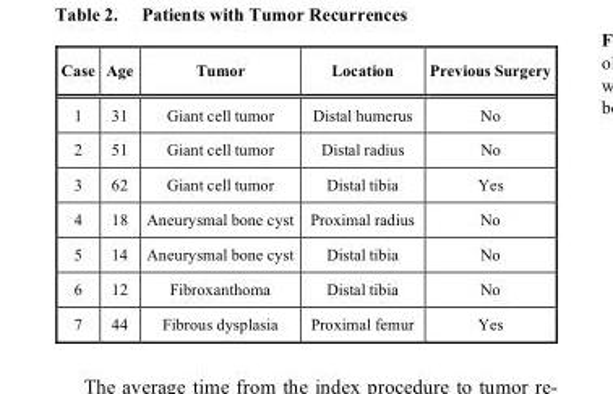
<table><thead><tr><td>Case</td><td>Age</td><td>Tumor</td><td>Location</td><td>Previous Surgery</td></tr></thead><tbody><tr><td>1</td><td>31</td><td>Giant cell tumor</td><td>Distal humerus</td><td>No</td></tr><tr><td>2</td><td>51</td><td>Giant cell tumor</td><td>Distal radius</td><td>No</td></tr><tr><td>3</td><td>62</td><td>Giant cell tumor</td><td>Distal tibia</td><td>Yes</td></tr><tr><td>4</td><td>18</td><td>Aneurysmal bone cyst</td><td>Proximal radius</td><td>No</td></tr><tr><td>5</td><td>14</td><td>Aneurysmal bone cyst</td><td>Distal tibia</td><td>No</td></tr><tr><td>6</td><td>12</td><td>Fibroxanthoma</td><td>Distal tibia</td><td>No</td></tr><tr><td>7</td><td>44</td><td>Fibrous dysplasia</td><td>Proximal femur</td><td>Yes</td></tr></tbody></table>